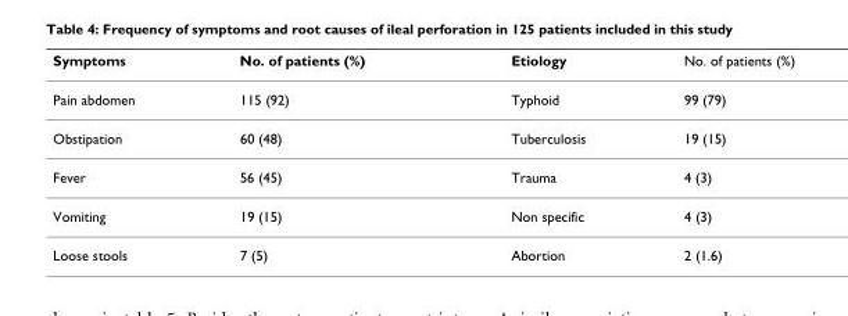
<table><thead><tr><td>Symptoms</td><td>No. of patients (%)</td><td>Etiology</td><td>No. of patients (%)</td></tr></thead><tbody><tr><td>Pain abdomen</td><td>115 (92)</td><td>Typhoid</td><td>99 (79)</td></tr><tr><td>Obstipation</td><td>60 (48)</td><td>Tuberculosis</td><td>19 (15)</td></tr><tr><td>Fever</td><td>56 (45)</td><td>Trauma</td><td>4 (3)</td></tr><tr><td>Vomiting</td><td>19 (15)</td><td>Non specific</td><td>4 (3)</td></tr><tr><td>Loose stools</td><td>7 (5)</td><td>Abortion</td><td>2 (1.6)</td></tr></tbody></table>